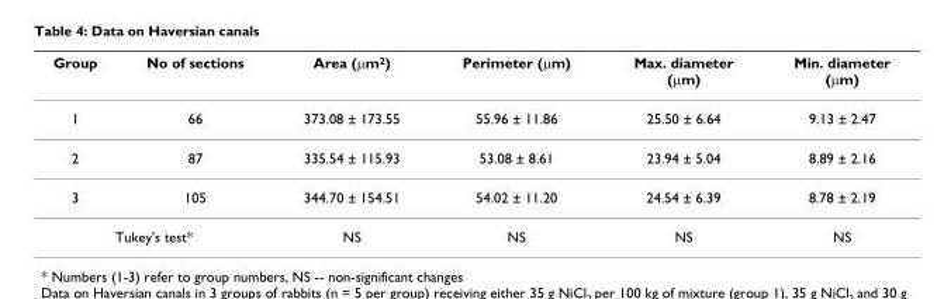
<table><thead><tr><td>Group</td><td>No of sections</td><td>Area (μm<sup>2</sup>)</td><td>Perimeter (μm)</td><td>Max. diameter (μm)</td><td>Min. diameter (μm)</td></tr></thead><tbody><tr><td>1</td><td>66</td><td>373.08 ± 173.55</td><td>55.96 ± 11.86</td><td>25.50 ± 6.64</td><td>9.13 ± 2.47</td></tr><tr><td>2</td><td>87</td><td>335.54 ± 115.93</td><td>53.08 ± 8.61</td><td>23.94 ± 5.04</td><td>8.89 ± 2.16</td></tr><tr><td>3</td><td>105</td><td>344.70 ± 154.51</td><td>54.02 ± 11.20</td><td>24.54 ± 6.39</td><td>8.78 ± 2.19</td></tr><tr><td colspan="2">Tukey&#x27;s test*</td><td>NS</td><td>NS</td><td>NS</td><td>NS</td></tr></tbody></table>